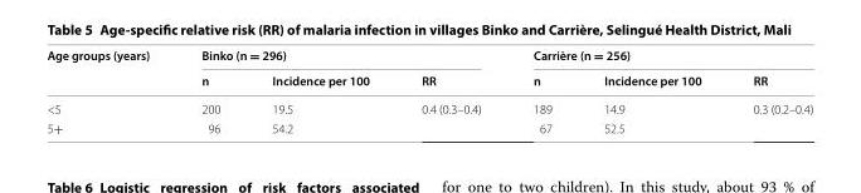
<table><thead><tr><td rowspan="2">Age groups (years)</td><td colspan="3">Binko (n = 296)</td><td colspan="3">Carrière (n = 256)</td></tr><tr><td>n</td><td>Incidence per 100</td><td>RR</td><td>n</td><td>Incidence per 100</td><td>RR</td></tr></thead><tbody><tr><td>&lt;5</td><td>200</td><td>19.5</td><td rowspan="2">0.4 (0.3–0.4)</td><td>189</td><td>14.9</td><td rowspan="2">0.3 (0.2–0.4)</td></tr><tr><td>5+</td><td>96</td><td>54.2</td><td>67</td><td>52.5</td></tr></tbody></table>